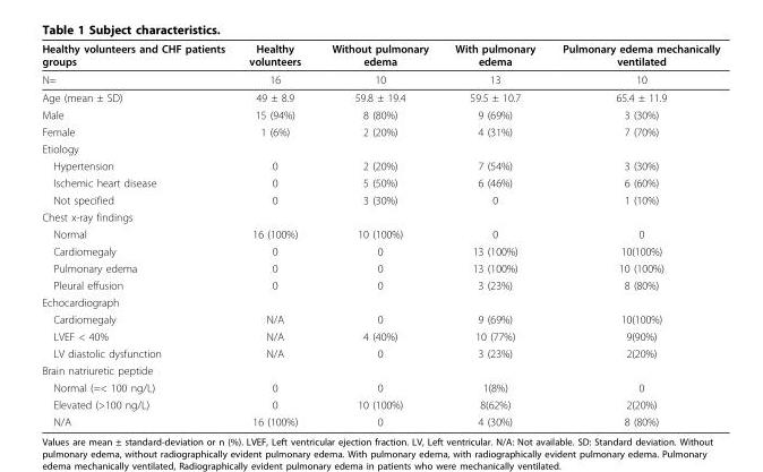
<table><thead><tr><td>Healthy volunteers and CHF patients groups</td><td>Healthy volunteers</td><td>Without pulmonary edema</td><td>With pulmonary edema</td><td>Pulmonary edema mechanically ventilated</td></tr></thead><tbody><tr><td>N=</td><td>16</td><td>10</td><td>13</td><td>10</td></tr><tr><td>Age (mean ± SD)</td><td>49 ± 8.9</td><td>59.8 ± 19.4</td><td>59.5 ± 10.7</td><td>65.4 ± 11.9</td></tr><tr><td>Male</td><td>15 (94%)</td><td>8 (80%)</td><td>9 (69%)</td><td>3 (30%)</td></tr><tr><td>Female</td><td>1 (6%)</td><td>2 (20%)</td><td>4 (31%)</td><td>7 (70%)</td></tr><tr><td colspan="5">Etiology</td></tr><tr><td>Hypertension</td><td>0</td><td>2 (20%)</td><td>7 (54%)</td><td>3 (30%)</td></tr><tr><td>Ischemic heart disease</td><td>0</td><td>5 (50%)</td><td>6 (46%)</td><td>6 (60%)</td></tr><tr><td>Not specified</td><td>0</td><td>3 (30%)</td><td>0</td><td>1 (10%)</td></tr><tr><td colspan="5">Chest x-ray findings</td></tr><tr><td>Normal</td><td>16 (100%)</td><td>10 (100%)</td><td>0</td><td>0</td></tr><tr><td>Cardiomegaly</td><td>0</td><td>0</td><td>13 (100%)</td><td>10(100%)</td></tr><tr><td>Pulmonary edema</td><td>0</td><td>0</td><td>13 (100%)</td><td>10 (100%)</td></tr><tr><td>Pleural effusion</td><td>0</td><td>0</td><td>3 (23%)</td><td>8 (80%)</td></tr><tr><td colspan="5">Echocardiograph</td></tr><tr><td>Cardiomegaly</td><td>N/A</td><td>0</td><td>9 (69%)</td><td>10(100%)</td></tr><tr><td>LVEF &lt; 40%</td><td>N/A</td><td>4 (40%)</td><td>10 (77%)</td><td>9(90%)</td></tr><tr><td>LV diastolic dysfunction</td><td>N/A</td><td>0</td><td>3 (23%)</td><td>2(20%)</td></tr><tr><td colspan="5">Brain natriuretic peptide</td></tr><tr><td>Normal (=&lt; 100 ng/L)</td><td>0</td><td>0</td><td>1(8%)</td><td>0</td></tr><tr><td>Elevated (&gt;100 ng/L)</td><td>0</td><td>10 (100%)</td><td>8(62%)</td><td>2(20%)</td></tr><tr><td>N/A</td><td>16 (100%)</td><td>0</td><td>4 (30%)</td><td>8 (80%)</td></tr></tbody></table>